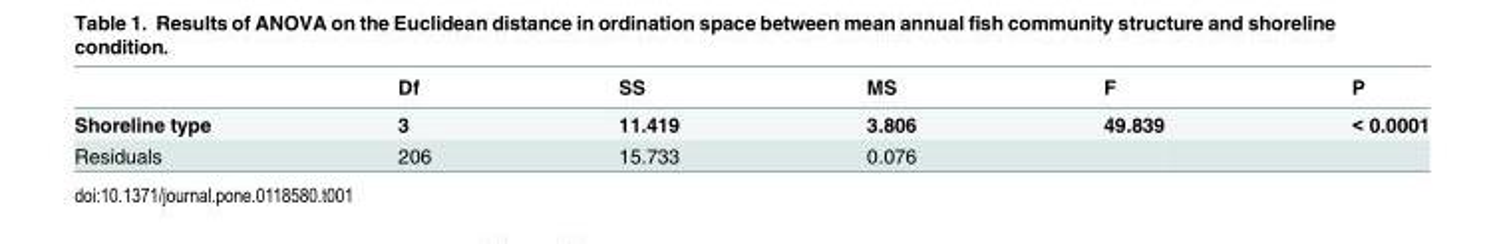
<table><thead><tr><td></td><td>Df</td><td>SS</td><td>MS</td><td>F</td><td>P</td></tr></thead><tbody><tr><td>Shoreline type</td><td>3</td><td>11.419</td><td>3.806</td><td>49.839</td><td>&lt; 0.0001</td></tr><tr><td>Residuals</td><td>206</td><td>15.733</td><td>0.076</td><td></td><td></td></tr></tbody></table>